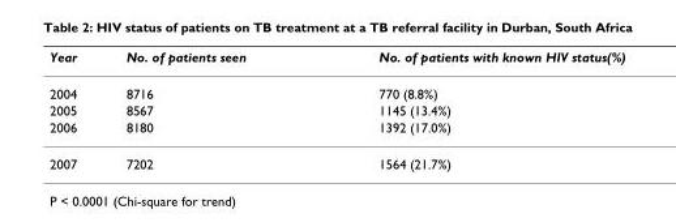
<table><thead><tr><td>Year</td><td>No. of patients seen</td><td>No. of patients with known HIV status(%)</td></tr></thead><tbody><tr><td>2004</td><td>8716</td><td>770 (8.8%)</td></tr><tr><td>2005</td><td>8567</td><td>1145 (13.4%)</td></tr><tr><td>2006</td><td>8180</td><td>1392 (17.0%)</td></tr><tr><td>2007</td><td>7202</td><td>1564 (21.7%)</td></tr></tbody></table>